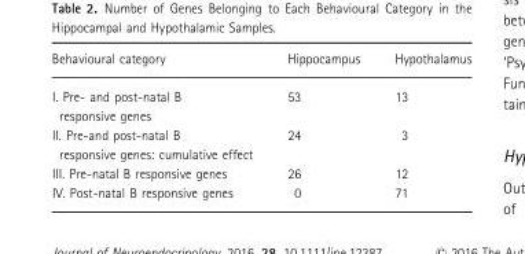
<table><thead><tr><td>Behavioural category</td><td>Hippocampus</td><td>Hypothalamus</td></tr></thead><tbody><tr><td>I. Pre- and post-natal B responsive genes</td><td>53</td><td>13</td></tr><tr><td>II. Pre-and post-natal B responsive genes: cumulative effect</td><td>24</td><td>3</td></tr><tr><td>III. Pre-natal B responsive genes</td><td>26</td><td>12</td></tr><tr><td>IV. Post-natal B responsive genes</td><td>0</td><td>71</td></tr></tbody></table>